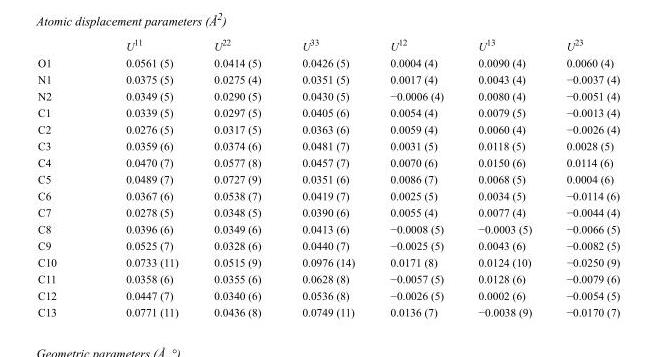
<table><thead><tr><td></td><td>U<sup>11</sup></td><td>U<sup>22</sup></td><td>U<sup>33</sup></td><td>U<sup>12</sup></td><td>U<sup>13</sup></td><td>U<sup>23</sup></td></tr></thead><tbody><tr><td>O1</td><td>0.0561 (5)</td><td>0.0414 (5)</td><td>0.0426 (5)</td><td>0.0004 (4)</td><td>0.0090 (4)</td><td>0.0060 (4)</td></tr><tr><td>N1</td><td>0.0375 (5)</td><td>0.0275 (4)</td><td>0.0351 (5)</td><td>0.0017 (4)</td><td>0.0043 (4)</td><td>−0.0037 (4)</td></tr><tr><td>N2</td><td>0.0349 (5)</td><td>0.0290 (5)</td><td>0.0430 (5)</td><td>−0.0006 (4)</td><td>0.0080 (4)</td><td>−0.0051 (4)</td></tr><tr><td>C1</td><td>0.0339 (5)</td><td>0.0297 (5)</td><td>0.0405 (6)</td><td>0.0054 (4)</td><td>0.0079 (5)</td><td>−0.0013 (4)</td></tr><tr><td>C2</td><td>0.0276 (5)</td><td>0.0317 (5)</td><td>0.0363 (6)</td><td>0.0059 (4)</td><td>0.0060 (4)</td><td>−0.0026 (4)</td></tr><tr><td>C3</td><td>0.0359 (6)</td><td>0.0374 (6)</td><td>0.0481 (7)</td><td>0.0031 (5)</td><td>0.0118 (5)</td><td>0.0028 (5)</td></tr><tr><td>C4</td><td>0.0470 (7)</td><td>0.0577 (8)</td><td>0.0457 (7)</td><td>0.0070 (6)</td><td>0.0150 (6)</td><td>0.0114 (6)</td></tr><tr><td>C5</td><td>0.0489 (7)</td><td>0.0727 (9)</td><td>0.0351 (6)</td><td>0.0086 (7)</td><td>0.0068 (5)</td><td>0.0004 (6)</td></tr><tr><td>C6</td><td>0.0367 (6)</td><td>0.0538 (7)</td><td>0.0419 (7)</td><td>0.0025 (5)</td><td>0.0034 (5)</td><td>−0.0114 (6)</td></tr><tr><td>C7</td><td>0.0278 (5)</td><td>0.0348 (5)</td><td>0.0390 (6)</td><td>0.0055 (4)</td><td>0.0077 (4)</td><td>−0.0044 (4)</td></tr><tr><td>C8</td><td>0.0396 (6)</td><td>0.0349 (6)</td><td>0.0413 (6)</td><td>−0.0008 (5)</td><td>−0.0003 (5)</td><td>−0.0066 (5)</td></tr><tr><td>C9</td><td>0.0525 (7)</td><td>0.0328 (6)</td><td>0.0440 (7)</td><td>−0.0025 (5)</td><td>0.0043 (6)</td><td>−0.0082 (5)</td></tr><tr><td>C10</td><td>0.0733 (11)</td><td>0.0515 (9)</td><td>0.0976 (14)</td><td>0.0171 (8)</td><td>0.0124 (10)</td><td>−0.0250 (9)</td></tr><tr><td>C11</td><td>0.0358 (6)</td><td>0.0355 (6)</td><td>0.0628 (8)</td><td>−0.0057 (5)</td><td>0.0128 (6)</td><td>−0.0079 (6)</td></tr><tr><td>C12</td><td>0.0447 (7)</td><td>0.0340 (6)</td><td>0.0536 (8)</td><td>−0.0026 (5)</td><td>0.0002 (6)</td><td>−0.0054 (5)</td></tr><tr><td>C13</td><td>0.0771 (11)</td><td>0.0436 (8)</td><td>0.0749 (11)</td><td>0.0136 (7)</td><td>−0.0038 (9)</td><td>−0.0170 (7)</td></tr></tbody></table>